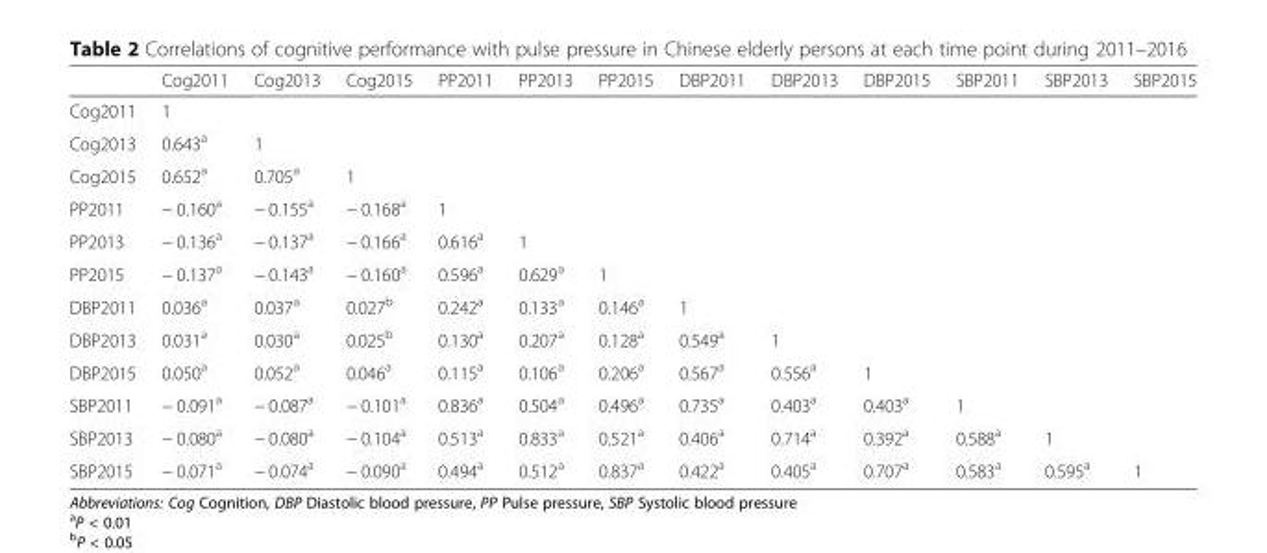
<table><thead><tr><td></td><td>Cog2011</td><td>Cog2013</td><td>Cog2015</td><td>PP2011</td><td>PP2013</td><td>PP2015</td><td>DBP2011</td><td>DBP2013</td><td>DBP2015</td><td>SBP2011</td><td>SBP2013</td><td>SBP2015</td></tr></thead><tbody><tr><td>Cog2011</td><td>1</td><td></td><td></td><td></td><td></td><td></td><td></td><td></td><td></td><td></td><td></td><td></td></tr><tr><td>Cog2013</td><td>0.643<sup>a</sup></td><td>1</td><td></td><td></td><td></td><td></td><td></td><td></td><td></td><td></td><td></td><td></td></tr><tr><td>Cog2015</td><td>0.652<sup>a</sup></td><td>0.705<sup>a</sup></td><td>1</td><td></td><td></td><td></td><td></td><td></td><td></td><td></td><td></td><td></td></tr><tr><td>PP2011</td><td>− 0.160<sup>a</sup></td><td>− 0.155<sup>a</sup></td><td>− 0.168<sup>a</sup></td><td>1</td><td></td><td></td><td></td><td></td><td></td><td></td><td></td><td></td></tr><tr><td>PP2013</td><td>− 0.136<sup>a</sup></td><td>− 0.137<sup>a</sup></td><td>− 0.166<sup>a</sup></td><td>0.616<sup>a</sup></td><td>1</td><td></td><td></td><td></td><td></td><td></td><td></td><td></td></tr><tr><td>PP2015</td><td>− 0.137<sup>a</sup></td><td>− 0.143<sup>a</sup></td><td>− 0.160<sup>a</sup></td><td>0.596<sup>a</sup></td><td>0.629<sup>a</sup></td><td>1</td><td></td><td></td><td></td><td></td><td></td><td></td></tr><tr><td>DBP2011</td><td>0.036<sup>a</sup></td><td>0.037<sup>a</sup></td><td>0.027<sup>b</sup></td><td>0.242<sup>a</sup></td><td>0.133<sup>a</sup></td><td>0.146<sup>a</sup></td><td>1</td><td></td><td></td><td></td><td></td><td></td></tr><tr><td>DBP2013</td><td>0.031<sup>a</sup></td><td>0.030<sup>a</sup></td><td>0.025<sup>b</sup></td><td>0.130<sup>a</sup></td><td>0.207<sup>a</sup></td><td>0.128<sup>a</sup></td><td>0.549<sup>a</sup></td><td>1</td><td></td><td></td><td></td><td></td></tr><tr><td>DBP2015</td><td>0.050<sup>a</sup></td><td>0.052<sup>a</sup></td><td>0.046<sup>a</sup></td><td>0.115<sup>a</sup></td><td>0.106<sup>a</sup></td><td>0.206<sup>a</sup></td><td>0.567<sup>a</sup></td><td>0.556<sup>a</sup></td><td>1</td><td></td><td></td><td></td></tr><tr><td>SBP2011</td><td>− 0.091<sup>a</sup></td><td>− 0.087<sup>a</sup></td><td>− 0.101<sup>a</sup></td><td>0.836<sup>a</sup></td><td>0.504<sup>a</sup></td><td>0.496<sup>a</sup></td><td>0.735<sup>a</sup></td><td>0.403<sup>a</sup></td><td>0.403<sup>a</sup></td><td>1</td><td></td><td></td></tr><tr><td>SBP2013</td><td>− 0.080<sup>a</sup></td><td>− 0.080<sup>a</sup></td><td>− 0.104<sup>a</sup></td><td>0.513<sup>a</sup></td><td>0.833<sup>a</sup></td><td>0.521<sup>a</sup></td><td>0.406<sup>a</sup></td><td>0.714<sup>a</sup></td><td>0.392<sup>a</sup></td><td>0.588<sup>a</sup></td><td>1</td><td></td></tr><tr><td>SBP2015</td><td>− 0.071<sup>a</sup></td><td>− 0.074<sup>a</sup></td><td>− 0.090<sup>a</sup></td><td>0.494<sup>a</sup></td><td>0.512<sup>a</sup></td><td>0.837<sup>a</sup></td><td>0.422<sup>a</sup></td><td>0.405<sup>a</sup></td><td>0.707<sup>a</sup></td><td>0.583<sup>a</sup></td><td>0.595<sup>a</sup></td><td>1</td></tr></tbody></table>